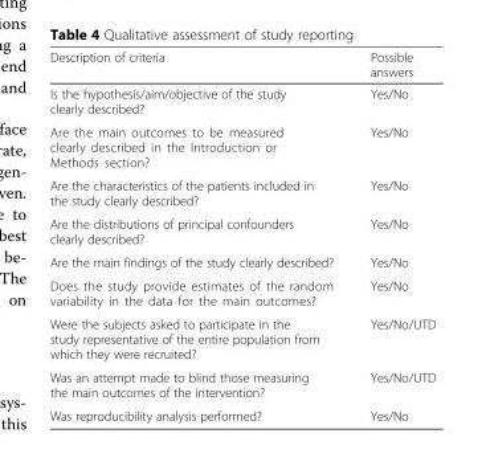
<table><thead><tr><td>Description of criteria</td><td>Possible answers</td></tr></thead><tbody><tr><td>Is the hypothesis/aim/objective of the study clearly described?</td><td>Yes/No</td></tr><tr><td>Are the main outcomes to be measured clearly described in the Introduction or Methods section?</td><td>Yes/No</td></tr><tr><td>Are the characteristics of the patients included in the study clearly described?</td><td>Yes/No</td></tr><tr><td>Are the distributions of principal confounders clearly described?</td><td>Yes/No</td></tr><tr><td>Are the main findings of the study clearly described?</td><td>Yes/No</td></tr><tr><td>Does the study provide estimates of the random variability in the data for the main outcomes?</td><td>Yes/No</td></tr><tr><td>Were the subjects asked to participate in the study representative of the entire population from which they were recruited?</td><td>Yes/No/UTD</td></tr><tr><td>Was an attempt made to blind those measuring the main outcomes of the intervention?</td><td>Yes/No/UTD</td></tr><tr><td>Was reproducibility analysis performed?</td><td>Yes/No</td></tr></tbody></table>